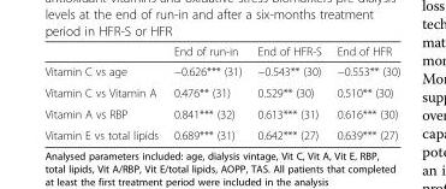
<table><thead><tr><td></td><td>End of run-in</td><td>End of HFR-S</td><td>End of HFR</td></tr></thead><tbody><tr><td>Vitamin C vs age</td><td>−0.626*** (31)</td><td>−0.543** (30)</td><td>−0.553** (30)</td></tr><tr><td>Vitamin C vs Vitamin A</td><td>0.476** (31)</td><td>0.529** (30)</td><td>0.510** (30)</td></tr><tr><td>Vitamin A vs RBP</td><td>0.841*** (32)</td><td>0.613*** (31)</td><td>0.616*** (30)</td></tr><tr><td>Vitamin E vs total lipids</td><td>0.689*** (31)</td><td>0.642*** (27)</td><td>0.639*** (27)</td></tr></tbody></table>